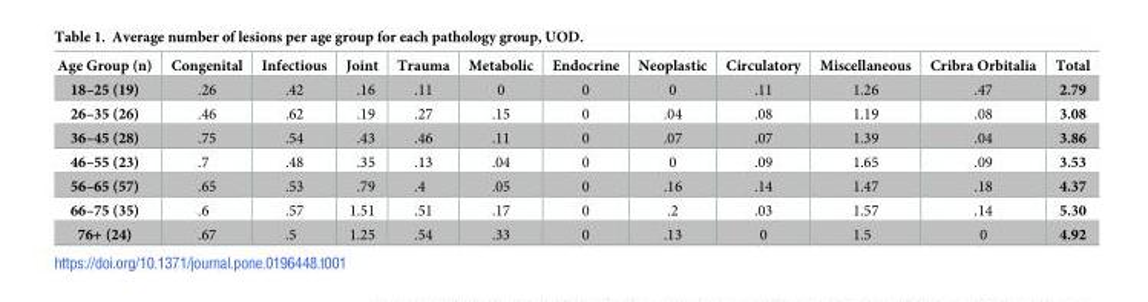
<table><thead><tr><td>Age Group (n)</td><td>Congenital</td><td>Infectious</td><td>Joint</td><td>Trauma</td><td>Metabolic</td><td>Endocrine</td><td>Neoplastic</td><td>Circulatory</td><td>Miscellaneous</td><td>Cribra Orbitalia</td><td>Total</td></tr></thead><tbody><tr><td>18–25 (19)</td><td>.26</td><td>.42</td><td>.16</td><td>.11</td><td>0</td><td>0</td><td>0</td><td>.11</td><td>1.26</td><td>.47</td><td>2.79</td></tr><tr><td>26–35 (26)</td><td>.46</td><td>.62</td><td>.19</td><td>.27</td><td>.15</td><td>0</td><td>.04</td><td>.08</td><td>1.19</td><td>.08</td><td>3.08</td></tr><tr><td>36–45 (28)</td><td>.75</td><td>.54</td><td>.43</td><td>.46</td><td>.11</td><td>0</td><td>.07</td><td>.07</td><td>1.39</td><td>.04</td><td>3.86</td></tr><tr><td>46–55 (23)</td><td>.7</td><td>.48</td><td>.35</td><td>.13</td><td>.04</td><td>0</td><td>0</td><td>.09</td><td>1.65</td><td>.09</td><td>3.53</td></tr><tr><td>56–65 (57)</td><td>.65</td><td>.53</td><td>.79</td><td>.4</td><td>.05</td><td>0</td><td>.16</td><td>.14</td><td>1.47</td><td>.18</td><td>4.37</td></tr><tr><td>66–75 (35)</td><td>.6</td><td>.57</td><td>1.51</td><td>.51</td><td>.17</td><td>0</td><td>.2</td><td>.03</td><td>1.57</td><td>.14</td><td>5.30</td></tr><tr><td>76+ (24)</td><td>.67</td><td>.5</td><td>1.25</td><td>.54</td><td>.33</td><td>0</td><td>.13</td><td>0</td><td>1.5</td><td>0</td><td>4.92</td></tr></tbody></table>